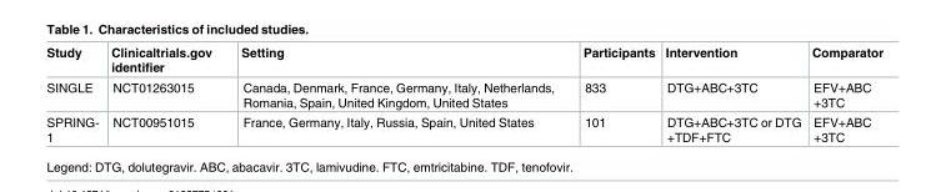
<table><thead><tr><td>Study</td><td>Clinicaltrials.gov identifier</td><td>Setting</td><td>Participants</td><td>Intervention</td><td>Comparator</td></tr></thead><tbody><tr><td>SINGLE</td><td>NCT01263015</td><td>Canada, Denmark, France, Germany, Italy, Netherlands, Romania, Spain, United Kingdom, United States</td><td>833</td><td>DTG+ABC+3TC</td><td>EFV+ABC +3TC</td></tr><tr><td>SPRING- 1</td><td>NCT00951015</td><td>France, Germany, Italy, Russia, Spain, United States</td><td>101</td><td>DTG+ABC+3TC or DTG +TDF+FTC</td><td>EFV+ABC +3TC</td></tr></tbody></table>